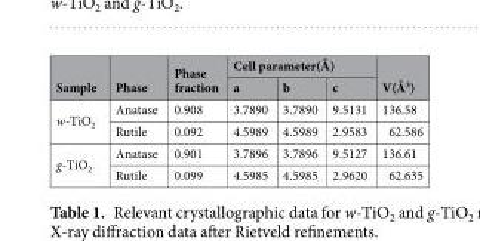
<table><thead><tr><td rowspan="2">Sample</td><td rowspan="2">Phase</td><td rowspan="2">Phase fraction</td><td colspan="3">Cell parameter(Å)</td><td rowspan="2">V(Å<sup>3</sup>)</td></tr><tr><td>a</td><td>b</td><td>c</td></tr></thead><tbody><tr><td rowspan="2">w-TiO<sub>2</sub></td><td>Anatase</td><td>0.908</td><td>3.7890</td><td>3.7890</td><td>9.5131</td><td>136.58</td></tr><tr><td>Rutile</td><td>0.092</td><td>4.5989</td><td>4.5989</td><td>2.9583</td><td>62.586</td></tr><tr><td rowspan="2">g-TiO<sub>2</sub></td><td>Anatase</td><td>0.901</td><td>3.7896</td><td>3.7896</td><td>9.5127</td><td>136.61</td></tr><tr><td>Rutile</td><td>0.099</td><td>4.5985</td><td>4.5985</td><td>2.9620</td><td>62.635</td></tr></tbody></table>